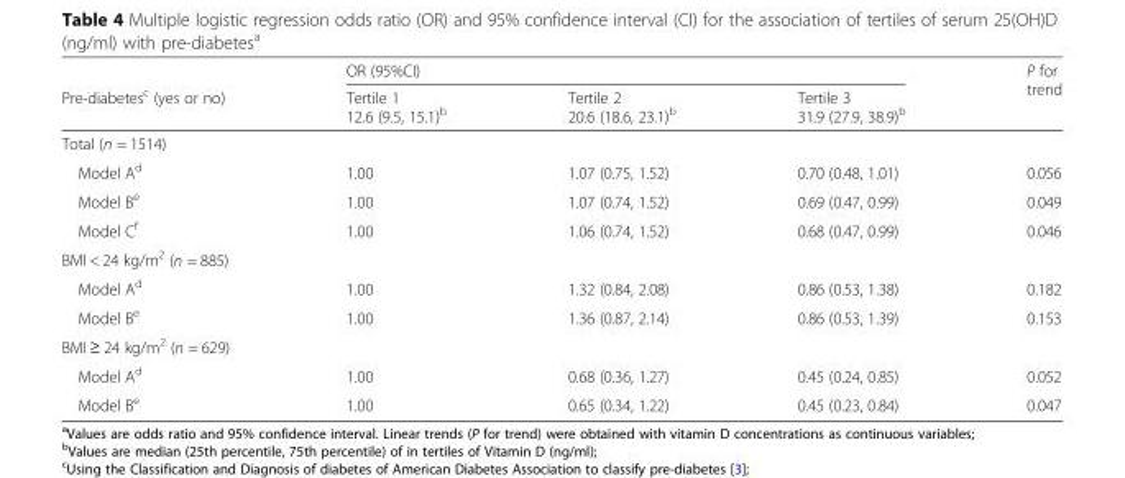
<table><thead><tr><td rowspan="2">Pre-diabetes<sup>c</sup> (yes or no)</td><td colspan="3">OR (95%CI)</td><td rowspan="2">P for trend</td></tr><tr><td>Tertile 1 12.6 (9.5, 15.1)<sup>b</sup></td><td>Tertile 2 20.6 (18.6, 23.1)<sup>b</sup></td><td>Tertile 3 31.9 (27.9, 38.9)<sup>b</sup></td></tr></thead><tbody><tr><td colspan="5">Total (n = 1514)</td></tr><tr><td>Model A<sup>d</sup></td><td>1.00</td><td>1.07 (0.75, 1.52)</td><td>0.70 (0.48, 1.01)</td><td>0.056</td></tr><tr><td>Model B<sup>e</sup></td><td>1.00</td><td>1.07 (0.74, 1.52)</td><td>0.69 (0.47, 0.99)</td><td>0.049</td></tr><tr><td>Model C<sup>f</sup></td><td>1.00</td><td>1.06 (0.74, 1.52)</td><td>0.68 (0.47, 0.99)</td><td>0.046</td></tr><tr><td colspan="5">BMI &lt; 24 kg/m<sup>2</sup> (n = 885)</td></tr><tr><td>Model A<sup>d</sup></td><td>1.00</td><td>1.32 (0.84, 2.08)</td><td>0.86 (0.53, 1.38)</td><td>0.182</td></tr><tr><td>Model B<sup>e</sup></td><td>1.00</td><td>1.36 (0.87, 2.14)</td><td>0.86 (0.53, 1.39)</td><td>0.153</td></tr><tr><td colspan="5">BMI ≥ 24 kg/m<sup>2</sup> (n = 629)</td></tr><tr><td>Model A<sup>d</sup></td><td>1.00</td><td>0.68 (0.36, 1.27)</td><td>0.45 (0.24, 0.85)</td><td>0.052</td></tr><tr><td>Model B<sup>e</sup></td><td>1.00</td><td>0.65 (0.34, 1.22)</td><td>0.45 (0.23, 0.84)</td><td>0.047</td></tr></tbody></table>